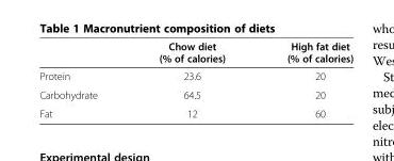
<table><thead><tr><td></td><td>Chow diet (% of calories)</td><td>High fat diet (% of calories)</td></tr></thead><tbody><tr><td>Protein</td><td>23.6</td><td>20</td></tr><tr><td>Carbohydrate</td><td>64.5</td><td>20</td></tr><tr><td>Fat</td><td>12</td><td>60</td></tr></tbody></table>